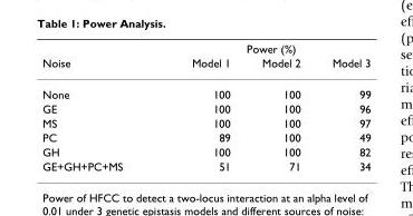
<table><thead><tr><td rowspan="2">Noise</td><td colspan="3">Power (%)</td></tr><tr><td>Model 1</td><td>Model 2</td><td>Model 3</td></tr></thead><tbody><tr><td>None</td><td>100</td><td>100</td><td>99</td></tr><tr><td>GE</td><td>100</td><td>100</td><td>96</td></tr><tr><td>MS</td><td>100</td><td>100</td><td>97</td></tr><tr><td>PC</td><td>89</td><td>100</td><td>49</td></tr><tr><td>GH</td><td>100</td><td>100</td><td>82</td></tr><tr><td>GE+GH+PC+MS</td><td>51</td><td>71</td><td>34</td></tr></tbody></table>